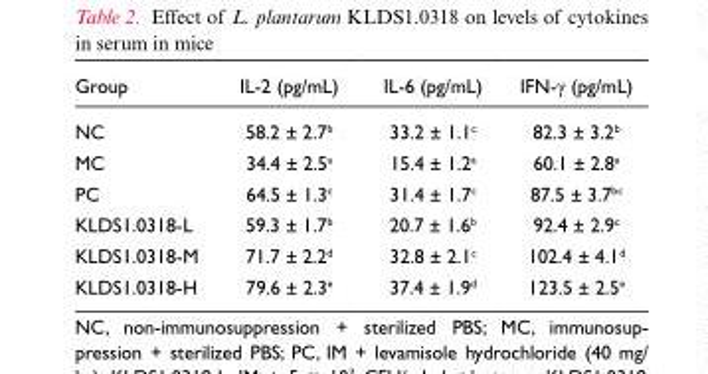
<table><thead><tr><td>Group</td><td>IL-2 (pg/mL)</td><td>IL-6 (pg/mL)</td><td>IFN-γ (pg/mL)</td></tr></thead><tbody><tr><td>NC</td><td>58.2 ± 2.7<sup>b</sup></td><td>33.2 ± 1.1<sup>c</sup></td><td>82.3 ± 3.2<sup>b</sup></td></tr><tr><td>MC</td><td>34.4 ± 2.5<sup>a</sup></td><td>15.4 ± 1.2<sup>a</sup></td><td>60.1 ± 2.8<sup>a</sup></td></tr><tr><td>PC</td><td>64.5 ± 1.3<sup>c</sup></td><td>31.4 ± 1.7<sup>c</sup></td><td>87.5 ± 3.7<sup>bc</sup></td></tr><tr><td>KLDS1.0318-L</td><td>59.3 ± 1.7<sup>b</sup></td><td>20.7 ± 1.6<sup>b</sup></td><td>92.4 ± 2.9<sup>c</sup></td></tr><tr><td>KLDS1.0318-M</td><td>71.7 ± 2.2<sup>d</sup></td><td>32.8 ± 2.1<sup>c</sup></td><td>102.4 ± 4.1<sup>d</sup></td></tr><tr><td>KLDS1.0318-H</td><td>79.6 ± 2.3<sup>e</sup></td><td>37.4 ± 1.9<sup>d</sup></td><td>123.5 ± 2.5<sup>e</sup></td></tr></tbody></table>